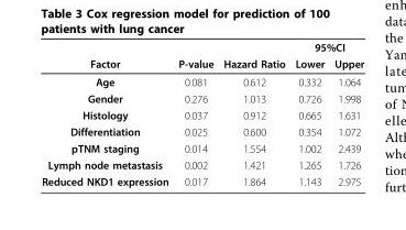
<table><thead><tr><td rowspan="2">Factor</td><td rowspan="2">P-value</td><td rowspan="2">Hazard Ratio</td><td colspan="2">95%CI</td></tr><tr><td>Lower</td><td>Upper</td></tr></thead><tbody><tr><td>Age</td><td>0.081</td><td>0.612</td><td>0.332</td><td>1.064</td></tr><tr><td>Gender</td><td>0.276</td><td>1.013</td><td>0.726</td><td>1.998</td></tr><tr><td>Histology</td><td>0.037</td><td>0.912</td><td>0.665</td><td>1.631</td></tr><tr><td>Differentiation</td><td>0.025</td><td>0.600</td><td>0.354</td><td>1.072</td></tr><tr><td>pTNM staging</td><td>0.014</td><td>1.554</td><td>1.002</td><td>2.439</td></tr><tr><td>Lymph node metastasis</td><td>0.002</td><td>1.421</td><td>1.265</td><td>1.726</td></tr><tr><td>Reduced NKD1 expression</td><td>0.017</td><td>1.864</td><td>1.143</td><td>2.975</td></tr></tbody></table>